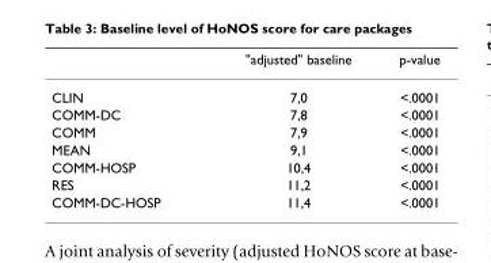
<table><thead><tr><td></td><td>&quot;adjusted&quot; baseline</td><td>p-value</td></tr></thead><tbody><tr><td>CLIN</td><td>7,0</td><td>&lt;.0001</td></tr><tr><td>COMM-DC</td><td>7,8</td><td>&lt;.0001</td></tr><tr><td>COMM</td><td>7,9</td><td>&lt;.0001</td></tr><tr><td>MEAN</td><td>9,1</td><td>&lt;.0001</td></tr><tr><td>COMM-HOSP</td><td>10,4</td><td>&lt;.0001</td></tr><tr><td>RES</td><td>11,2</td><td>&lt;.0001</td></tr><tr><td>COMM-DC-HOSP</td><td>11,4</td><td>&lt;.0001</td></tr></tbody></table>